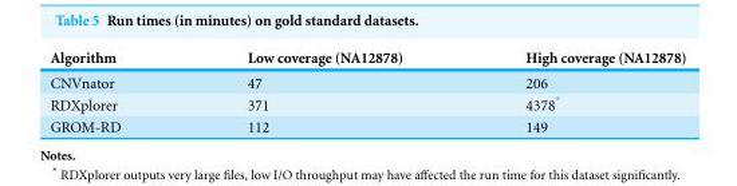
<table><thead><tr><td>Algorithm</td><td>Low coverage (NA12878)</td><td>High coverage (NA12878)</td></tr></thead><tbody><tr><td>CNVnator</td><td>47</td><td>206</td></tr><tr><td>RDXplorer</td><td>371</td><td>4378*</td></tr><tr><td>GROM-RD</td><td>112</td><td>149</td></tr></tbody></table>